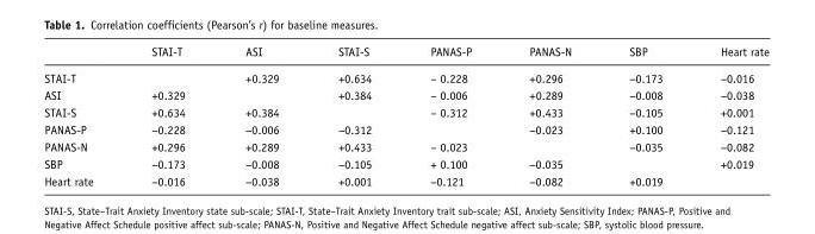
<table><thead><tr><td></td><td>STAI-T</td><td>ASI</td><td>STAI-S</td><td>PANAS-P</td><td>PANAS-N</td><td>SBP</td><td>Heart rate</td></tr></thead><tbody><tr><td>STAI-T</td><td></td><td>+0.329</td><td>+0.634</td><td>– 0.228</td><td>+0.296</td><td>−0.173</td><td>−0.016</td></tr><tr><td>ASI</td><td>+0.329</td><td></td><td>+0.384</td><td>– 0.006</td><td>+0.289</td><td>−0.008</td><td>−0.038</td></tr><tr><td>STAI-S</td><td>+0.634</td><td>+0.384</td><td></td><td>– 0.312</td><td>+0.433</td><td>−0.105</td><td>+0.001</td></tr><tr><td>PANAS-P</td><td>−0.228</td><td>−0.006</td><td>−0.312</td><td></td><td>−0.023</td><td>+0.100</td><td>−0.121</td></tr><tr><td>PANAS-N</td><td>+0.296</td><td>+0.289</td><td>+0.433</td><td>– 0.023</td><td></td><td>−0.035</td><td>−0.082</td></tr><tr><td>SBP</td><td>−0.173</td><td>−0.008</td><td>−0.105</td><td>+ 0.100</td><td>−0.035</td><td></td><td>+0.019</td></tr><tr><td>Heart rate</td><td>−0.016</td><td>−0.038</td><td>+0.001</td><td>−0.121</td><td>−0.082</td><td>+0.019</td><td></td></tr></tbody></table>